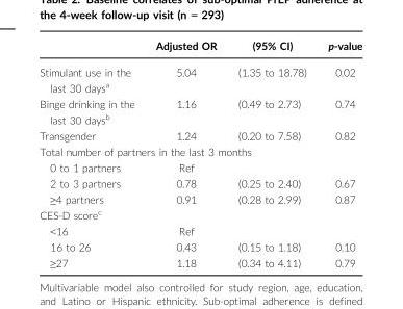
<table><thead><tr><td></td><td>Adjusted OR</td><td>(95% CI)</td><td>p-value</td></tr></thead><tbody><tr><td>Stimulant use in the last 30 days<sup>a</sup></td><td>5.04</td><td>(1.35 to 18.78)</td><td>0.02</td></tr><tr><td>Binge drinking in the last 30 days<sup>b</sup></td><td>1.16</td><td>(0.49 to 2.73)</td><td>0.74</td></tr><tr><td>Transgender</td><td>1.24</td><td>(0.20 to 7.58)</td><td>0.82</td></tr><tr><td colspan="4">Total number of partners in the last 3 months</td></tr><tr><td>0 to 1 partners</td><td>Ref</td><td></td><td></td></tr><tr><td>2 to 3 partners</td><td>0.78</td><td>(0.25 to 2.40)</td><td>0.67</td></tr><tr><td>≥4 partners</td><td>0.91</td><td>(0.28 to 2.99)</td><td>0.87</td></tr><tr><td colspan="4">CES-D score<sup>c</sup></td></tr><tr><td>&lt;16</td><td>Ref</td><td></td><td></td></tr><tr><td>16 to 26</td><td>0.43</td><td>(0.15 to 1.18)</td><td>0.10</td></tr><tr><td>≥27</td><td>1.18</td><td>(0.34 to 4.11)</td><td>0.79</td></tr></tbody></table>